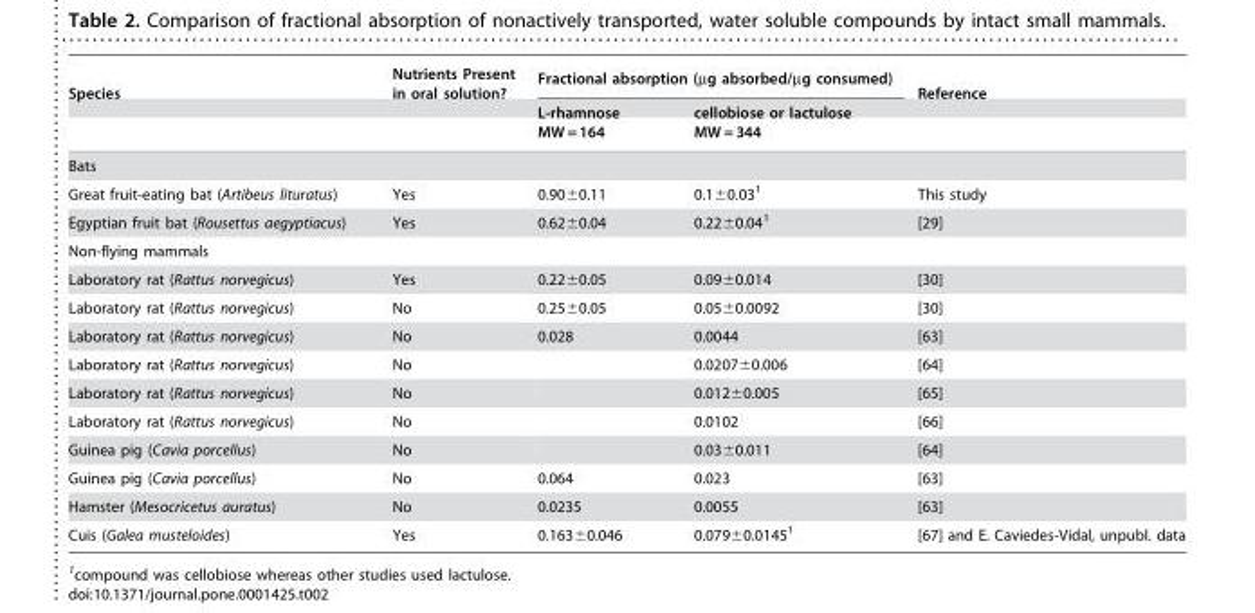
<table><thead><tr><td rowspan="3">Species</td><td rowspan="3">Nutrients Present in oral solution?</td><td colspan="2">Fractional absorption (µg absorbed/µg consumed)</td><td rowspan="3">Reference</td></tr><tr><td rowspan="2">L-rhamnose MW = 164</td><td rowspan="2">cellobiose or lactulose MW = 344</td></tr><tr></tr></thead><tbody><tr><td colspan="5">Bats</td></tr><tr><td>Great fruit-eating bat (Artibeus lituratus)</td><td>Yes</td><td>0.90±0.11</td><td>0.1±0.03<sup>1</sup></td><td>This study</td></tr><tr><td>Egyptian fruit bat (Rousettus aegyptiacus)</td><td>Yes</td><td>0.62±0.04</td><td>0.22±0.04<sup>1</sup></td><td>[29]</td></tr><tr><td colspan="5">Non-flying mammals</td></tr><tr><td>Laboratory rat (Rattus norvegicus)</td><td>Yes</td><td>0.22±0.05</td><td>0.09±0.014</td><td>[30]</td></tr><tr><td>Laboratory rat (Rattus norvegicus)</td><td>No</td><td>0.25±0.05</td><td>0.05±0.0092</td><td>[30]</td></tr><tr><td>Laboratory rat (Rattus norvegicus)</td><td>No</td><td>0.028</td><td>0.0044</td><td>[63]</td></tr><tr><td>Laboratory rat (Rattus norvegicus)</td><td>No</td><td></td><td>0.0207±0.006</td><td>[64]</td></tr><tr><td>Laboratory rat (Rattus norvegicus)</td><td>No</td><td></td><td>0.012±0.005</td><td>[65]</td></tr><tr><td>Laboratory rat (Rattus norvegicus)</td><td>No</td><td></td><td>0.0102</td><td>[66]</td></tr><tr><td>Guinea pig (Cavia porcellus)</td><td>No</td><td></td><td>0.03±0.011</td><td>[64]</td></tr><tr><td>Guinea pig (Cavia porcellus)</td><td>No</td><td>0.064</td><td>0.023</td><td>[63]</td></tr><tr><td>Hamster (Mesocricetus auratus)</td><td>No</td><td>0.0235</td><td>0.0055</td><td>[63]</td></tr><tr><td>Cuis (Galea musteloides)</td><td>Yes</td><td>0.163±0.046</td><td>0.079±0.0145<sup>1</sup></td><td>[67] and E. Caviedes-Vidal, unpubl. data</td></tr></tbody></table>